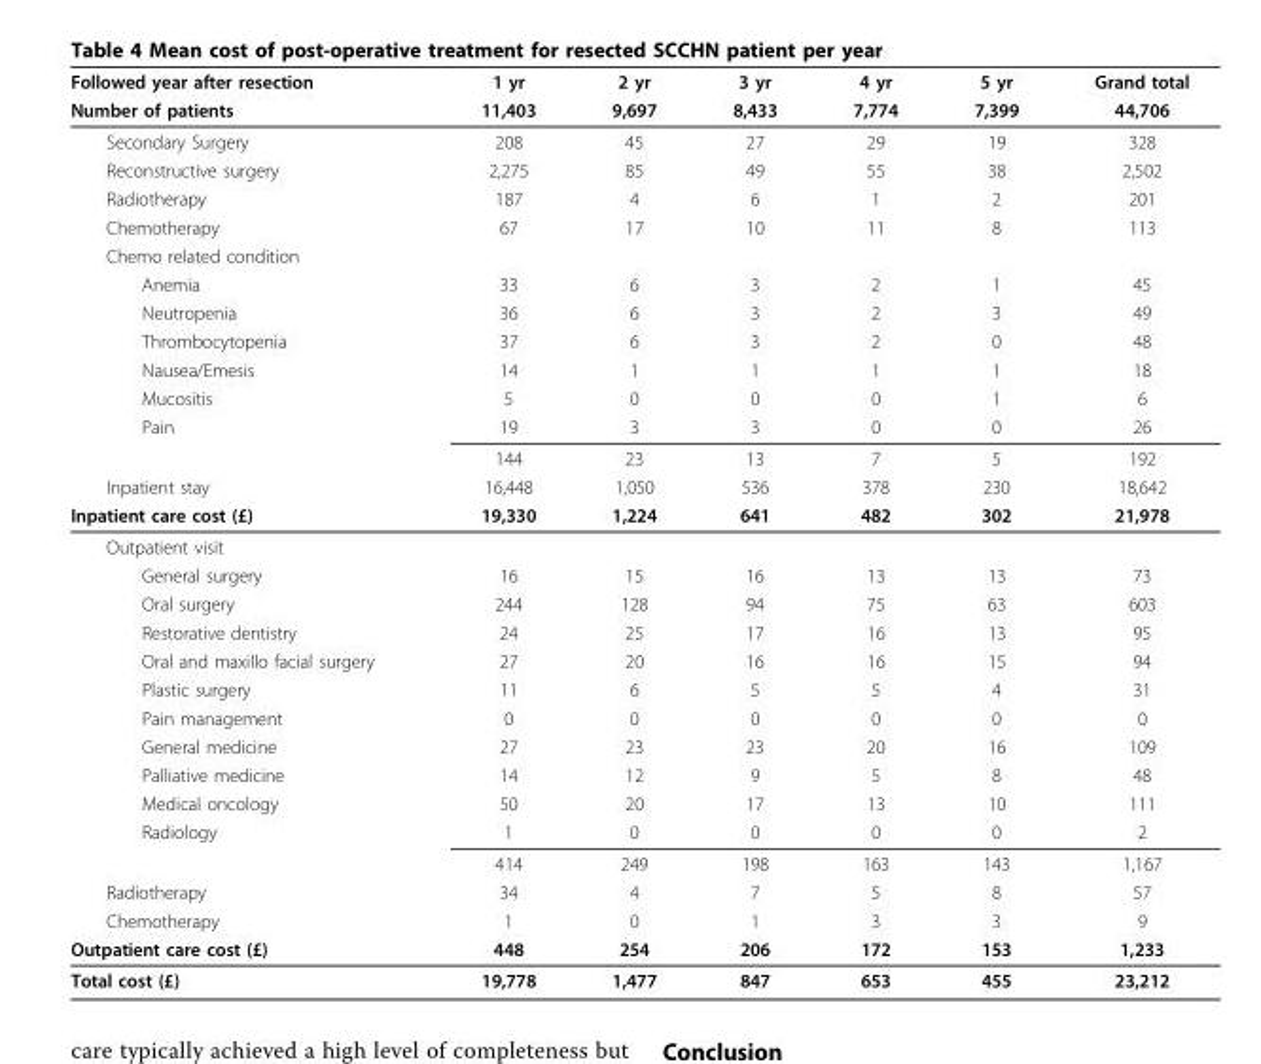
<table><thead><tr><td rowspan="2">Followed year after resection Number of patients</td><td rowspan="2">1 yr 11,403</td><td rowspan="2">2 yr 9,697</td><td rowspan="2">3 yr 8,433</td><td rowspan="2">4 yr 7,774</td><td rowspan="2">5 yr 7,399</td><td rowspan="2">Grand total 44,706</td></tr><tr></tr></thead><tbody><tr><td>Secondary Surgery</td><td>208</td><td>45</td><td>27</td><td>29</td><td>19</td><td>328</td></tr><tr><td>Reconstructive surgery</td><td>2,275</td><td>85</td><td>49</td><td>55</td><td>38</td><td>2,502</td></tr><tr><td>Radiotherapy</td><td>187</td><td>4</td><td>6</td><td>1</td><td>2</td><td>201</td></tr><tr><td>Chemotherapy</td><td>67</td><td>17</td><td>10</td><td>11</td><td>8</td><td>113</td></tr><tr><td colspan="7">Chemo related condition</td></tr><tr><td>Anemia</td><td>33</td><td>6</td><td>3</td><td>2</td><td>1</td><td>45</td></tr><tr><td>Neutropenia</td><td>36</td><td>6</td><td>3</td><td>2</td><td>3</td><td>49</td></tr><tr><td>Thrombocytopenia</td><td>37</td><td>6</td><td>3</td><td>2</td><td>0</td><td>48</td></tr><tr><td>Nausea/Emesis</td><td>14</td><td>1</td><td>1</td><td>1</td><td>1</td><td>18</td></tr><tr><td>Mucositis</td><td>5</td><td>0</td><td>0</td><td>0</td><td>1</td><td>6</td></tr><tr><td rowspan="2">Pain</td><td>19</td><td>3</td><td>3</td><td>0</td><td>0</td><td>26</td></tr><tr><td>144</td><td>23</td><td>13</td><td>7</td><td>5</td><td>192</td></tr><tr><td>Inpatient stay</td><td>16,448</td><td>1,050</td><td>536</td><td>378</td><td>230</td><td>18,642</td></tr><tr><td>Inpatient care cost (£)</td><td>19,330</td><td>1,224</td><td>641</td><td>482</td><td>302</td><td>21,978</td></tr><tr><td colspan="7">Outpatient visit</td></tr><tr><td>General surgery</td><td>16</td><td>15</td><td>16</td><td>13</td><td>13</td><td>73</td></tr><tr><td>Oral surgery</td><td>244</td><td>128</td><td>94</td><td>75</td><td>63</td><td>603</td></tr><tr><td>Restorative dentistry</td><td>24</td><td>25</td><td>17</td><td>16</td><td>13</td><td>95</td></tr><tr><td>Oral and maxillo facial surgery</td><td>27</td><td>20</td><td>16</td><td>16</td><td>15</td><td>94</td></tr><tr><td>Plastic surgery</td><td>11</td><td>6</td><td>5</td><td>5</td><td>4</td><td>31</td></tr><tr><td>Pain management</td><td>0</td><td>0</td><td>0</td><td>0</td><td>0</td><td>0</td></tr><tr><td>General medicine</td><td>27</td><td>23</td><td>23</td><td>20</td><td>16</td><td>109</td></tr><tr><td>Palliative medicine</td><td>14</td><td>12</td><td>9</td><td>5</td><td>8</td><td>48</td></tr><tr><td>Medical oncology</td><td>50</td><td>20</td><td>17</td><td>13</td><td>10</td><td>111</td></tr><tr><td rowspan="2">Radiology</td><td>1</td><td>0</td><td>0</td><td>0</td><td>0</td><td>2</td></tr><tr><td>414</td><td>249</td><td>198</td><td>163</td><td>143</td><td>1,167</td></tr><tr><td>Radiotherapy</td><td>34</td><td>4</td><td>7</td><td>5</td><td>8</td><td>57</td></tr><tr><td>Chemotherapy</td><td>1</td><td>0</td><td>1</td><td>3</td><td>3</td><td>9</td></tr><tr><td>Outpatient care cost (£)</td><td>448</td><td>254</td><td>206</td><td>172</td><td>153</td><td>1,233</td></tr><tr><td>Total cost (£)</td><td>19,778</td><td>1,477</td><td>847</td><td>653</td><td>455</td><td>23,212</td></tr></tbody></table>